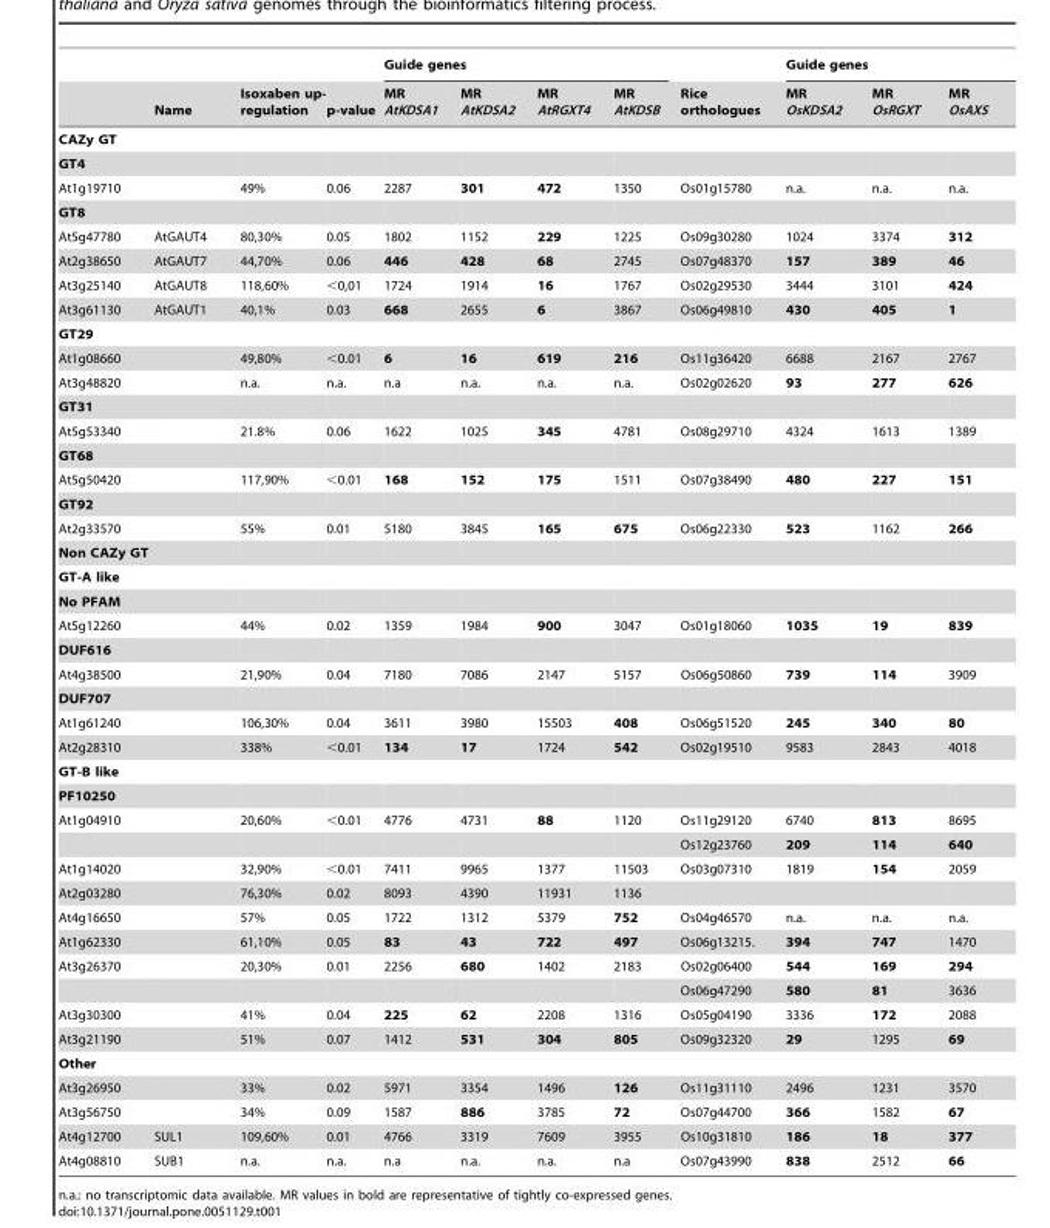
<table><thead><tr><td rowspan="2"></td><td rowspan="2">Name</td><td rowspan="2">Isoxaben up- regulation</td><td rowspan="2">p-value</td><td colspan="4">Guide genes</td><td rowspan="2">Rice orthologues</td><td colspan="3">Guide genes</td></tr><tr><td>MR AtKDSA1</td><td>MR AtKDSA2</td><td>MR AtRGXT4</td><td>MR AtKDSB</td><td>MR OsKDSA2</td><td>MR OsRGXT</td><td>MR OsAXS</td></tr></thead><tbody><tr><td colspan="12">CAZy GT</td></tr><tr><td colspan="12">GT4</td></tr><tr><td>At1g19710</td><td></td><td>49%</td><td>0.06</td><td>2287</td><td>301</td><td>472</td><td>1350</td><td>Os01g15780</td><td>n.a.</td><td>n.a.</td><td>n.a.</td></tr><tr><td colspan="12">GT8</td></tr><tr><td>At5g47780</td><td>AtGAUT4</td><td>80,30%</td><td>0.05</td><td>1802</td><td>1152</td><td>229</td><td>1225</td><td>Os09g30280</td><td>1024</td><td>3374</td><td>312</td></tr><tr><td>At2g38650</td><td>AtGAUT7</td><td>44,70%</td><td>0.06</td><td>446</td><td>428</td><td>68</td><td>2745</td><td>Os07g48370</td><td>157</td><td>389</td><td>46</td></tr><tr><td>At3g25140</td><td>AtGAUT8</td><td>118,60%</td><td>&lt;0,01</td><td>1724</td><td>1914</td><td>16</td><td>1767</td><td>Os02g29530</td><td>3444</td><td>3101</td><td>424</td></tr><tr><td>At3g61130</td><td>AtGAUT1</td><td>40,1%</td><td>0.03</td><td>668</td><td>2655</td><td>6</td><td>3867</td><td>Os06g49810</td><td>430</td><td>405</td><td>1</td></tr><tr><td colspan="12">GT29</td></tr><tr><td>At1g08660</td><td></td><td>49,80%</td><td>&lt;0.01</td><td>6</td><td>16</td><td>619</td><td>216</td><td>Os11g36420</td><td>6688</td><td>2167</td><td>2767</td></tr><tr><td>At3g48820</td><td></td><td>n.a.</td><td>n.a.</td><td>n.a</td><td>n.a.</td><td>n.a.</td><td>n.a.</td><td>Os02g02620</td><td>93</td><td>277</td><td>626</td></tr><tr><td colspan="12">GT31</td></tr><tr><td>At5g53340</td><td></td><td>21.8%</td><td>0.06</td><td>1622</td><td>1025</td><td>345</td><td>4781</td><td>Os08g29710</td><td>4324</td><td>1613</td><td>1389</td></tr><tr><td colspan="12">GT68</td></tr><tr><td>At5g50420</td><td></td><td>117,90%</td><td>&lt;0.01</td><td>168</td><td>152</td><td>175</td><td>1511</td><td>Os07g38490</td><td>480</td><td>227</td><td>151</td></tr><tr><td colspan="12">GT92</td></tr><tr><td>At2g33570</td><td></td><td>55%</td><td>0.01</td><td>5180</td><td>3845</td><td>165</td><td>675</td><td>Os06g22330</td><td>523</td><td>1162</td><td>266</td></tr><tr><td colspan="12">Non CAZy GT</td></tr><tr><td colspan="12">GT-A like</td></tr><tr><td colspan="12">No PFAM</td></tr><tr><td>At5g12260</td><td></td><td>44%</td><td>0.02</td><td>1359</td><td>1984</td><td>900</td><td>3047</td><td>Os01g18060</td><td>1035</td><td>19</td><td>839</td></tr><tr><td colspan="12">DUF616</td></tr><tr><td>At4g38500</td><td></td><td>21,90%</td><td>0.04</td><td>7180</td><td>7086</td><td>2147</td><td>5157</td><td>Os06g50860</td><td>739</td><td>114</td><td>3909</td></tr><tr><td colspan="12">DUF707</td></tr><tr><td>At1g61240</td><td></td><td>106,30%</td><td>0.04</td><td>3611</td><td>3980</td><td>15503</td><td>408</td><td>Os06g51520</td><td>245</td><td>340</td><td>80</td></tr><tr><td>At2g28310</td><td></td><td>338%</td><td>&lt;0.01</td><td>134</td><td>17</td><td>1724</td><td>542</td><td>Os02g19510</td><td>9583</td><td>2843</td><td>4018</td></tr><tr><td colspan="12">GT-B like</td></tr><tr><td colspan="12">PF10250</td></tr><tr><td rowspan="2">At1g04910</td><td></td><td>20,60%</td><td>&lt;0.01</td><td>4776</td><td>4731</td><td>88</td><td>1120</td><td>Os11g29120</td><td>6740</td><td>813</td><td>8695</td></tr><tr><td></td><td></td><td></td><td></td><td></td><td></td><td></td><td>Os12g23760</td><td>209</td><td>114</td><td>640</td></tr><tr><td>At1g14020</td><td></td><td>32,90%</td><td>&lt;0.01</td><td>7411</td><td>9965</td><td>1377</td><td>11503</td><td>Os03g07310</td><td>1819</td><td>154</td><td>2059</td></tr><tr><td>At2g03280</td><td></td><td>76,30%</td><td>0.02</td><td>8093</td><td>4390</td><td>11931</td><td>1136</td><td></td><td></td><td></td><td></td></tr><tr><td>At4g16650</td><td></td><td>57%</td><td>0.05</td><td>1722</td><td>1312</td><td>5379</td><td>752</td><td>Os04g46570</td><td>n.a.</td><td>n.a.</td><td>n.a.</td></tr><tr><td>At1g62330</td><td></td><td>61,10%</td><td>0.05</td><td>83</td><td>43</td><td>722</td><td>497</td><td>Os06g13215.</td><td>394</td><td>747</td><td>1470</td></tr><tr><td rowspan="2">At3g26370</td><td></td><td>20,30%</td><td>0.01</td><td>2256</td><td>680</td><td>1402</td><td>2183</td><td>Os02g06400</td><td>544</td><td>169</td><td>294</td></tr><tr><td></td><td></td><td></td><td></td><td></td><td></td><td></td><td>Os06g47290</td><td>580</td><td>81</td><td>3636</td></tr><tr><td>At3g30300</td><td></td><td>41%</td><td>0.04</td><td>225</td><td>62</td><td>2208</td><td>1316</td><td>Os05g04190</td><td>3336</td><td>172</td><td>2088</td></tr><tr><td>At3g21190</td><td></td><td>51%</td><td>0.07</td><td>1412</td><td>531</td><td>304</td><td>805</td><td>Os09g32320</td><td>29</td><td>1295</td><td>69</td></tr><tr><td colspan="12">Other</td></tr><tr><td>At3g26950</td><td></td><td>33%</td><td>0.02</td><td>5971</td><td>3354</td><td>1496</td><td>126</td><td>Os11g31110</td><td>2496</td><td>1231</td><td>3570</td></tr><tr><td>At3g56750</td><td></td><td>34%</td><td>0.09</td><td>1587</td><td>886</td><td>3785</td><td>72</td><td>Os07g44700</td><td>366</td><td>1582</td><td>67</td></tr><tr><td>At4g12700</td><td>SUL1</td><td>109,60%</td><td>0.01</td><td>4766</td><td>3319</td><td>7609</td><td>3955</td><td>Os10g31810</td><td>186</td><td>18</td><td>377</td></tr><tr><td>At4g08810</td><td>SUB1</td><td>n.a.</td><td>n.a.</td><td>n.a</td><td>n.a.</td><td>n.a.</td><td>n.a</td><td>Os07g43990</td><td>838</td><td>2512</td><td>66</td></tr></tbody></table>